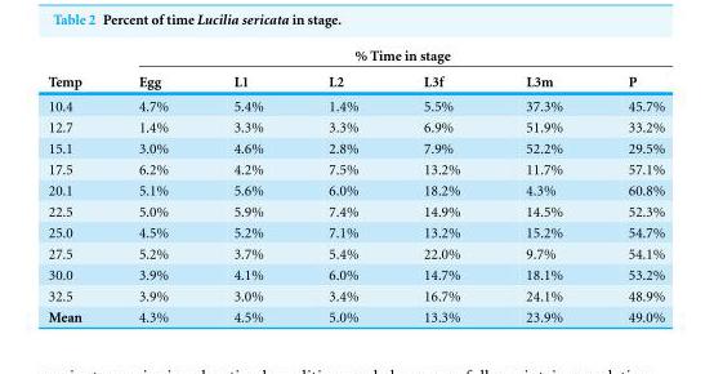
<table><thead><tr><td rowspan="2">Temp</td><td colspan="6">% Time in stage</td></tr><tr><td>Egg</td><td>L1</td><td>L2</td><td>L3f</td><td>L3m</td><td>P</td></tr></thead><tbody><tr><td>10.4</td><td>4.7%</td><td>5.4%</td><td>1.4%</td><td>5.5%</td><td>37.3%</td><td>45.7%</td></tr><tr><td>12.7</td><td>1.4%</td><td>3.3%</td><td>3.3%</td><td>6.9%</td><td>51.9%</td><td>33.2%</td></tr><tr><td>15.1</td><td>3.0%</td><td>4.6%</td><td>2.8%</td><td>7.9%</td><td>52.2%</td><td>29.5%</td></tr><tr><td>17.5</td><td>6.2%</td><td>4.2%</td><td>7.5%</td><td>13.2%</td><td>11.7%</td><td>57.1%</td></tr><tr><td>20.1</td><td>5.1%</td><td>5.6%</td><td>6.0%</td><td>18.2%</td><td>4.3%</td><td>60.8%</td></tr><tr><td>22.5</td><td>5.0%</td><td>5.9%</td><td>7.4%</td><td>14.9%</td><td>14.5%</td><td>52.3%</td></tr><tr><td>25.0</td><td>4.5%</td><td>5.2%</td><td>7.1%</td><td>13.2%</td><td>15.2%</td><td>54.7%</td></tr><tr><td>27.5</td><td>5.2%</td><td>3.7%</td><td>5.4%</td><td>22.0%</td><td>9.7%</td><td>54.1%</td></tr><tr><td>30.0</td><td>3.9%</td><td>4.1%</td><td>6.0%</td><td>14.7%</td><td>18.1%</td><td>53.2%</td></tr><tr><td>32.5</td><td>3.9%</td><td>3.0%</td><td>3.4%</td><td>16.7%</td><td>24.1%</td><td>48.9%</td></tr><tr><td>Mean</td><td>4.3%</td><td>4.5%</td><td>5.0%</td><td>13.3%</td><td>23.9%</td><td>49.0%</td></tr></tbody></table>